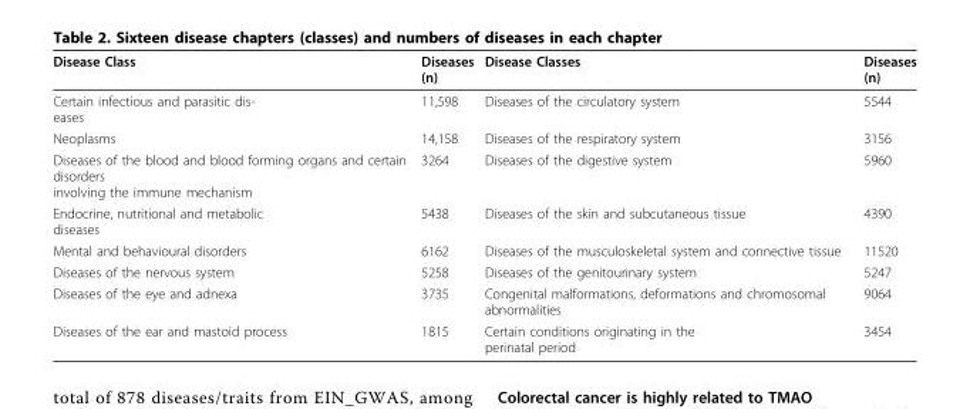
<table><thead><tr><td>Disease Class</td><td>Diseases (n)</td><td>Disease Classes</td><td>Diseases (n)</td></tr></thead><tbody><tr><td>Certain infectious and parasitic dis- eases</td><td>11,598</td><td>Diseases of the circulatory system</td><td>5544</td></tr><tr><td>Neoplasms</td><td>14,158</td><td>Diseases of the respiratory system</td><td>3156</td></tr><tr><td>Diseases of the blood and blood forming organs and certain disorders involving the immune mechanism</td><td>3264</td><td>Diseases of the digestive system</td><td>5960</td></tr><tr><td>Endocrine, nutritional and metabolic diseases</td><td>5438</td><td>Diseases of the skin and subcutaneous tissue</td><td>4390</td></tr><tr><td>Mental and behavioural disorders</td><td>6162</td><td>Diseases of the musculoskeletal system and connective tissue</td><td>11520</td></tr><tr><td>Diseases of the nervous system</td><td>5258</td><td>Diseases of the genitourinary system</td><td>5247</td></tr><tr><td>Diseases of the eye and adnexa</td><td>3735</td><td>Congenital malformations, deformations and chromosomal abnormalities</td><td>9064</td></tr><tr><td>Diseases of the ear and mastoid process</td><td>1815</td><td>Certain conditions originating in the perinatal period</td><td>3454</td></tr></tbody></table>